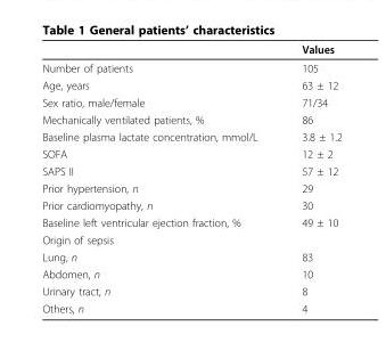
<table><thead><tr><td></td><td>Values</td></tr></thead><tbody><tr><td>Number of patients</td><td>105</td></tr><tr><td>Age, years</td><td>63 ± 12</td></tr><tr><td>Sex ratio, male/female</td><td>71/34</td></tr><tr><td>Mechanically ventilated patients, %</td><td>86</td></tr><tr><td>Baseline plasma lactate concentration, mmol/L</td><td>3.8 ± 1.2</td></tr><tr><td>SOFA</td><td>12 ± 2</td></tr><tr><td>SAPS II</td><td>57 ± 12</td></tr><tr><td>Prior hypertension, n</td><td>29</td></tr><tr><td>Prior cardiomyopathy, n</td><td>30</td></tr><tr><td>Baseline left ventricular ejection fraction, %</td><td>49 ± 10</td></tr><tr><td colspan="2">Origin of sepsis</td></tr><tr><td>Lung, n</td><td>83</td></tr><tr><td>Abdomen, n</td><td>10</td></tr><tr><td>Urinary tract, n</td><td>8</td></tr><tr><td>Others, n</td><td>4</td></tr></tbody></table>